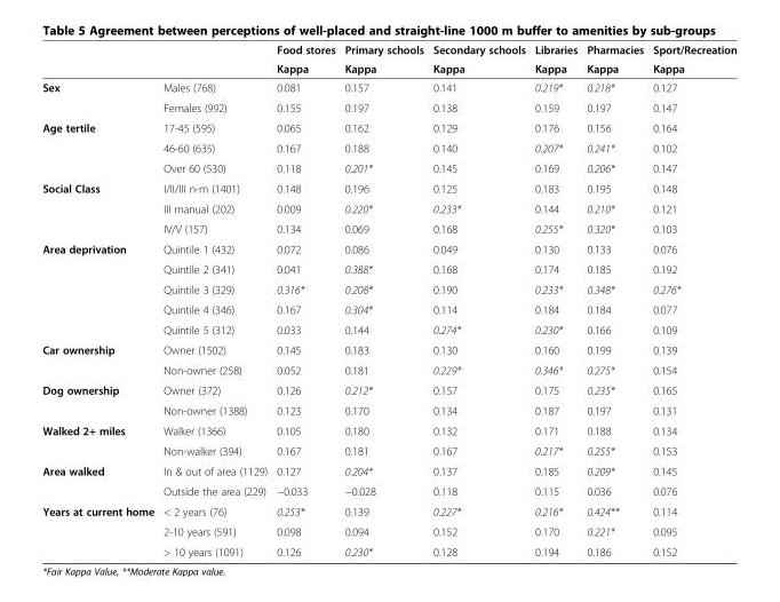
<table><thead><tr><td rowspan="2"></td><td rowspan="2"></td><td rowspan="2">Food stores Kappa</td><td rowspan="2">Primary schools Kappa</td><td rowspan="2">Secondary schools Kappa</td><td rowspan="2">Libraries Kappa</td><td rowspan="2">Pharmacies Kappa</td><td rowspan="2">Sport/Recreation Kappa</td></tr><tr></tr></thead><tbody><tr><td rowspan="2">Sex</td><td>Males (768)</td><td>0.081</td><td>0.157</td><td>0.141</td><td>0.219*</td><td>0.218*</td><td>0.127</td></tr><tr><td>Females (992)</td><td>0.155</td><td>0.197</td><td>0.138</td><td>0.159</td><td>0.197</td><td>0.147</td></tr><tr><td rowspan="3">Age tertile</td><td>17-45 (595)</td><td>0.065</td><td>0.162</td><td>0.129</td><td>0.176</td><td>0.156</td><td>0.164</td></tr><tr><td>46-60 (635)</td><td>0.167</td><td>0.188</td><td>0.140</td><td>0.207*</td><td>0.241*</td><td>0.102</td></tr><tr><td>Over 60 (530)</td><td>0.118</td><td>0.201*</td><td>0.145</td><td>0.169</td><td>0.206*</td><td>0.147</td></tr><tr><td rowspan="3">Social Class</td><td>I/II/III n-m (1401)</td><td>0.148</td><td>0.196</td><td>0.125</td><td>0.183</td><td>0.195</td><td>0.148</td></tr><tr><td>III manual (202)</td><td>0.009</td><td>0.220*</td><td>0.233*</td><td>0.144</td><td>0.210*</td><td>0.121</td></tr><tr><td>IV/V (157)</td><td>0.134</td><td>0.069</td><td>0.168</td><td>0.255*</td><td>0.320*</td><td>0.103</td></tr><tr><td rowspan="5">Area deprivation</td><td>Quintile 1 (432)</td><td>0.072</td><td>0.086</td><td>0.049</td><td>0.130</td><td>0.133</td><td>0.076</td></tr><tr><td>Quintile 2 (341)</td><td>0.041</td><td>0.388*</td><td>0.168</td><td>0.174</td><td>0.185</td><td>0.192</td></tr><tr><td>Quintile 3 (329)</td><td>0.316*</td><td>0.208*</td><td>0.190</td><td>0.233*</td><td>0.348*</td><td>0.276*</td></tr><tr><td>Quintile 4 (346)</td><td>0.167</td><td>0.304*</td><td>0.114</td><td>0.184</td><td>0.184</td><td>0.077</td></tr><tr><td>Quintile 5 (312)</td><td>0.033</td><td>0.144</td><td>0.274*</td><td>0.230*</td><td>0.166</td><td>0.109</td></tr><tr><td rowspan="2">Car ownership</td><td>Owner (1502)</td><td>0.145</td><td>0.183</td><td>0.130</td><td>0.160</td><td>0.199</td><td>0.139</td></tr><tr><td>Non-owner (258)</td><td>0.052</td><td>0.181</td><td>0.229*</td><td>0.346*</td><td>0.275*</td><td>0.154</td></tr><tr><td rowspan="2">Dog ownership</td><td>Owner (372)</td><td>0.126</td><td>0.212*</td><td>0.157</td><td>0.175</td><td>0.235*</td><td>0.165</td></tr><tr><td>Non-owner (1388)</td><td>0.123</td><td>0.170</td><td>0.134</td><td>0.187</td><td>0.197</td><td>0.131</td></tr><tr><td rowspan="2">Walked 2+ miles</td><td>Walker (1366)</td><td>0.105</td><td>0.180</td><td>0.132</td><td>0.171</td><td>0.188</td><td>0.134</td></tr><tr><td>Non-walker (394)</td><td>0.167</td><td>0.181</td><td>0.167</td><td>0.217*</td><td>0.255*</td><td>0.153</td></tr><tr><td rowspan="2">Area walked</td><td>In &amp; out of area (1129)</td><td>0.127</td><td>0.204*</td><td>0.137</td><td>0.185</td><td>0.209*</td><td>0.145</td></tr><tr><td>Outside the area (229)</td><td>−0.033</td><td>−0.028</td><td>0.118</td><td>0.115</td><td>0.036</td><td>0.076</td></tr><tr><td rowspan="3">Years at current home</td><td>&lt; 2 years (76)</td><td>0.253*</td><td>0.139</td><td>0.227*</td><td>0.216*</td><td>0.424**</td><td>0.114</td></tr><tr><td>2-10 years (591)</td><td>0.098</td><td>0.094</td><td>0.152</td><td>0.170</td><td>0.221*</td><td>0.095</td></tr><tr><td>&gt; 10 years (1091)</td><td>0.126</td><td>0.230*</td><td>0.128</td><td>0.194</td><td>0.186</td><td>0.152</td></tr></tbody></table>